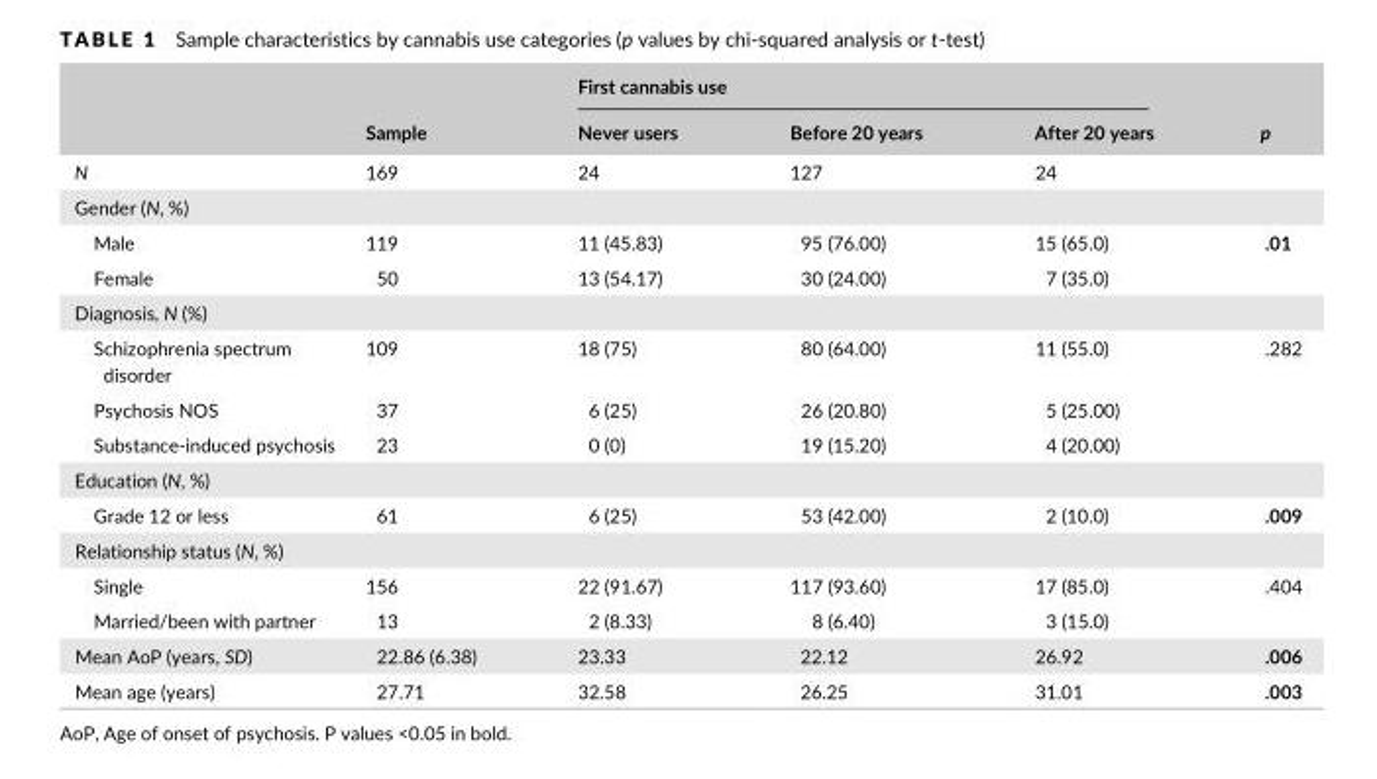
<table><thead><tr><td rowspan="2"></td><td rowspan="2">Sample</td><td colspan="3">First cannabis use</td><td rowspan="2">p</td></tr><tr><td>Never users</td><td>Before 20 years</td><td>After 20 years</td></tr></thead><tbody><tr><td>N</td><td>169</td><td>24</td><td>127</td><td>24</td><td></td></tr><tr><td colspan="6">Gender (N, %)</td></tr><tr><td>Male</td><td>119</td><td>11 (45.83)</td><td>95 (76.00)</td><td>15 (65.0)</td><td rowspan="2">.01</td></tr><tr><td>Female</td><td>50</td><td>13 (54.17)</td><td>30 (24.00)</td><td>7 (35.0)</td></tr><tr><td colspan="6">Diagnosis, N (%)</td></tr><tr><td>Schizophrenia spectrum disorder</td><td>109</td><td>18 (75)</td><td>80 (64.00)</td><td>11 (55.0)</td><td rowspan="3">.282</td></tr><tr><td>Psychosis NOS</td><td>37</td><td>6 (25)</td><td>26 (20.80)</td><td>5 (25.00)</td></tr><tr><td>Substance- induced psychosis</td><td>23</td><td>0 (0)</td><td>19 (15.20)</td><td>4 (20.00)</td></tr><tr><td colspan="6">Education (N, %)</td></tr><tr><td>Grade 12 or less</td><td>61</td><td>6 (25)</td><td>53 (42.00)</td><td>2 (10.0)</td><td>.009</td></tr><tr><td colspan="6">Relationship status (N, %)</td></tr><tr><td>Single</td><td>156</td><td>22 (91.67)</td><td>117 (93.60)</td><td>17 (85.0)</td><td rowspan="2">.404</td></tr><tr><td>Married/been with partner</td><td>13</td><td>2 (8.33)</td><td>8 (6.40)</td><td>3 (15.0)</td></tr><tr><td>Mean AoP (years, SD)</td><td>22.86 (6.38)</td><td>23.33</td><td>22.12</td><td>26.92</td><td>.006</td></tr><tr><td>Mean age (years)</td><td>27.71</td><td>32.58</td><td>26.25</td><td>31.01</td><td>.003</td></tr></tbody></table>